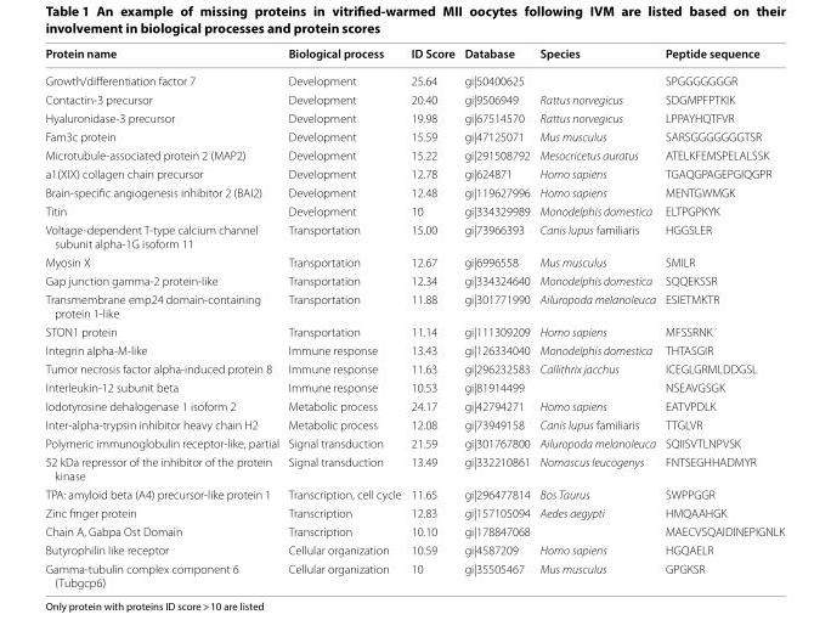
<table><thead><tr><td>Protein name</td><td>Biological process</td><td>ID Score</td><td>Database</td><td>Species</td><td>Peptide sequence</td></tr></thead><tbody><tr><td>Growth/differentiation factor 7</td><td>Development</td><td>25.64</td><td>gi|50400625</td><td></td><td>SPGGG GGG GR</td></tr><tr><td>Contactin-3 precursor</td><td>Development</td><td>20.40</td><td>gi|9506949</td><td>Rattus norvegicus</td><td>SDGMPFPTKIK</td></tr><tr><td>Hyaluronidase-3 precursor</td><td>Development</td><td>19.98</td><td>gi|67514570</td><td>Rattus norvegicus</td><td>LPPAYHQTFVR</td></tr><tr><td>Fam3c protein</td><td>Development</td><td>15.59</td><td>gi|47125071</td><td>Mus musculus</td><td>SARSGGG GGG GTSR</td></tr><tr><td>Microtubule-associated protein 2 (MAP2)</td><td>Development</td><td>15.22</td><td>gi|291508792</td><td>Mesocricetus auratus</td><td>ATELKFEMSPELALSSK</td></tr><tr><td>a1(XIX) collagen chain precursor</td><td>Development</td><td>12.78</td><td>gi|624871</td><td>Homo sapiens</td><td>TGAQGPAGEPGIQGPR</td></tr><tr><td>Brain-specific angiogenesis inhibitor 2 (BAI2)</td><td>Development</td><td>12.48</td><td>gi|119627996</td><td>Homo sapiens</td><td>MENTGWMGK</td></tr><tr><td>Titin</td><td>Development</td><td>10</td><td>gi|334329989</td><td>Monodelphis domestica</td><td>ELTPGPKYK</td></tr><tr><td>Voltage-dependent T-type calcium channel subunit alpha-1G isoform 11</td><td>Transportation</td><td>15.00</td><td>gi|73966393</td><td>Canis lupus familiaris</td><td>HGGSLER</td></tr><tr><td>Myosin X</td><td>Transportation</td><td>12.67</td><td>gi|6996558</td><td>Mus musculus</td><td>SMILR</td></tr><tr><td>Gap junction gamma-2 protein-like</td><td>Transportation</td><td>12.34</td><td>gi|334324640</td><td>Monodelphis domestica</td><td>SQQEKSSR</td></tr><tr><td>Transmembrane emp24 domain-containing protein 1-like</td><td>Transportation</td><td>11.88</td><td>gi|301771990</td><td>Ailuropoda melanoleuca</td><td>ESIETMKTR</td></tr><tr><td>STON1 protein</td><td>Transportation</td><td>11.14</td><td>gi|111309209</td><td>Homo sapiens</td><td>MFSSRNK</td></tr><tr><td>Integrin alpha-M-like</td><td>Immune response</td><td>13.43</td><td>gi|126334040</td><td>Monodelphis domestica</td><td>THTASGIR</td></tr><tr><td>Tumor necrosis factor alpha-induced protein 8</td><td>Immune response</td><td>11.63</td><td>gi|296232583</td><td>Callithrix jacchus</td><td>ICEGLGRMLDDGSL</td></tr><tr><td>Interleukin-12 subunit beta</td><td>Immune response</td><td>10.53</td><td>gi|81914499</td><td></td><td>NSEAVGSGK</td></tr><tr><td>Iodotyrosine dehalogenase 1 isoform 2</td><td>Metabolic process</td><td>24.17</td><td>gi|42794271</td><td>Homo sapiens</td><td>EATVPDLK</td></tr><tr><td>Inter-alpha-trypsin inhibitor heavy chain H2</td><td>Metabolic process</td><td>12.08</td><td>gi|73949158</td><td>Canis lupus familiaris</td><td>TTGLVR</td></tr><tr><td>Polymeric immunoglobulin receptor-like, partial</td><td>Signal transduction</td><td>21.59</td><td>gi|301767800</td><td>Ailuropoda melanoleuca</td><td>SQIISVTLNPVSK</td></tr><tr><td>52 kDa repressor of the inhibitor of the protein kinase</td><td>Signal transduction</td><td>13.49</td><td>gi|332210861</td><td>Nomascus leucogenys</td><td>FNTSEGHHADMYR</td></tr><tr><td>TPA: amyloid beta (A4) precursor-like protein 1</td><td>Transcription, cell cycle</td><td>11.65</td><td>gi|296477814</td><td>Bos Taurus</td><td>SWPPGGR</td></tr><tr><td>Zinc finger protein</td><td>Transcription</td><td>12.83</td><td>gi|157105094</td><td>Aedes aegypti</td><td>HMQAAHGK</td></tr><tr><td>Chain A, Gabpa Ost Domain</td><td>Transcription</td><td>10.10</td><td>gi|178847068</td><td></td><td>MAECVSQAIDINEPIGNLK</td></tr><tr><td>Butyrophilin like receptor</td><td>Cellular organization</td><td>10.59</td><td>gi|4587209</td><td>Homo sapiens</td><td>HGQAELR</td></tr><tr><td>Gamma-tubulin complex component 6 (Tubgcp6)</td><td>Cellular organization</td><td>10</td><td>gi|35505467</td><td>Mus musculus</td><td>GPGKSR</td></tr></tbody></table>